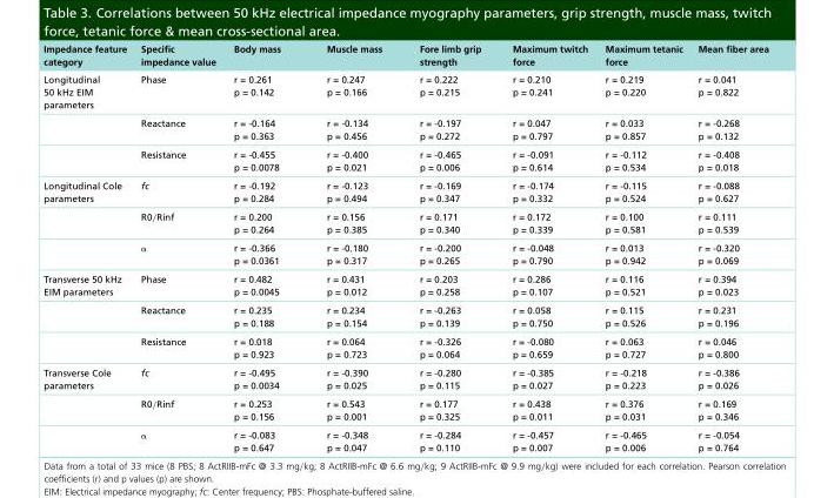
<table><thead><tr><td>Impedance feature category</td><td>Specific impedance value</td><td>Body mass</td><td>Muscle mass</td><td>Fore limb grip strength</td><td>Maximum twitch force</td><td>Maximum tetanic force</td><td>Mean fiber area</td></tr></thead><tbody><tr><td rowspan="3">Longitudinal 50 kHz EIM parameters</td><td>Phase</td><td>r = 0.261 p = 0.142</td><td>r = 0.247 p = 0.166</td><td>r = 0.222 p = 0.215</td><td>r = 0.210 p = 0.241</td><td>r = 0.219 p = 0.220</td><td>r = 0.041 p = 0.822</td></tr><tr><td>Reactance</td><td>r = -0.164 p = 0.363</td><td>r = -0.134 p = 0.456</td><td>r = -0.197 p = 0.272</td><td>r = 0.047 p = 0.797</td><td>r = 0.033 p = 0.857</td><td>r = -0.268 p = 0.132</td></tr><tr><td>Resistance</td><td>r = -0.455 p = 0.0078</td><td>r = -0.400 p = 0.021</td><td>r = -0.465 p = 0.006</td><td>r = -0.091 p = 0.614</td><td>r = -0.112 p = 0.534</td><td>r = -0.408 p = 0.018</td></tr><tr><td rowspan="3">Longitudinal Cole parameters</td><td>fc</td><td>r = -0.192 p = 0.284</td><td>r = -0.123 p = 0.494</td><td>r = -0.169 p = 0.347</td><td>r = -0.174 p = 0.332</td><td>r = -0.115 p = 0.524</td><td>r = -0.088 p = 0.627</td></tr><tr><td>R0/Rinf</td><td>r = 0.200 p = 0.264</td><td>r = 0.156 p = 0.385</td><td>r = 0.171 p = 0.340</td><td>r = 0.172 p = 0.339</td><td>r = 0.100 p = 0.581</td><td>r = 0.111 p = 0.539</td></tr><tr><td>α</td><td>r = -0.366 p = 0.0361</td><td>r = -0.180 p = 0.317</td><td>r = -0.200 p = 0.265</td><td>r = -0.048 p = 0.790</td><td>r = 0.013 p = 0.942</td><td>r = -0.320 p = 0.069</td></tr><tr><td rowspan="3">Transverse 50 kHz EIM parameters</td><td>Phase</td><td>r = 0.482 p = 0.0045</td><td>r = 0.431 p = 0.012</td><td>r = 0.203 p = 0.258</td><td>r = 0.286 p = 0.107</td><td>r = 0.116 p = 0.521</td><td>r = 0.394 p = 0.023</td></tr><tr><td>Reactance</td><td>r = 0.235 p = 0.188</td><td>r = 0.234 p = 0.154</td><td>r = -0.263 p = 0.139</td><td>r = 0.058 p = 0.750</td><td>r = 0.115 p = 0.526</td><td>r = 0.231 p = 0.196</td></tr><tr><td>Resistance</td><td>r = 0.018 p = 0.923</td><td>r = 0.064 p = 0.723</td><td>r = -0.326 p = 0.064</td><td>r = -0.080 p = 0.659</td><td>r = 0.063 p = 0.727</td><td>r = 0.046 p = 0.800</td></tr><tr><td rowspan="3">Transverse Cole parameters</td><td>fc</td><td>r = -0.495 p = 0.0034</td><td>r = -0.390 p = 0.025</td><td>r = -0.280 p = 0.115</td><td>r = -0.385 p = 0.027</td><td>r = -0.218 p = 0.223</td><td>r = -0.386 p = 0.026</td></tr><tr><td>R0/Rinf</td><td>r = 0.253 p = 0.156</td><td>r = 0.543 p = 0.001</td><td>r = 0.177 p = 0.325</td><td>r = 0.438 p = 0.011</td><td>r = 0.376 p = 0.031</td><td>r = 0.169 p = 0.346</td></tr><tr><td>α</td><td>r = -0.083 p = 0.647</td><td>r = -0.348 p = 0.047</td><td>r = -0.284 p = 0.110</td><td>r = -0.457 p = 0.007</td><td>r = -0.465 p = 0.006</td><td>r = -0.054 p = 0.764</td></tr></tbody></table>